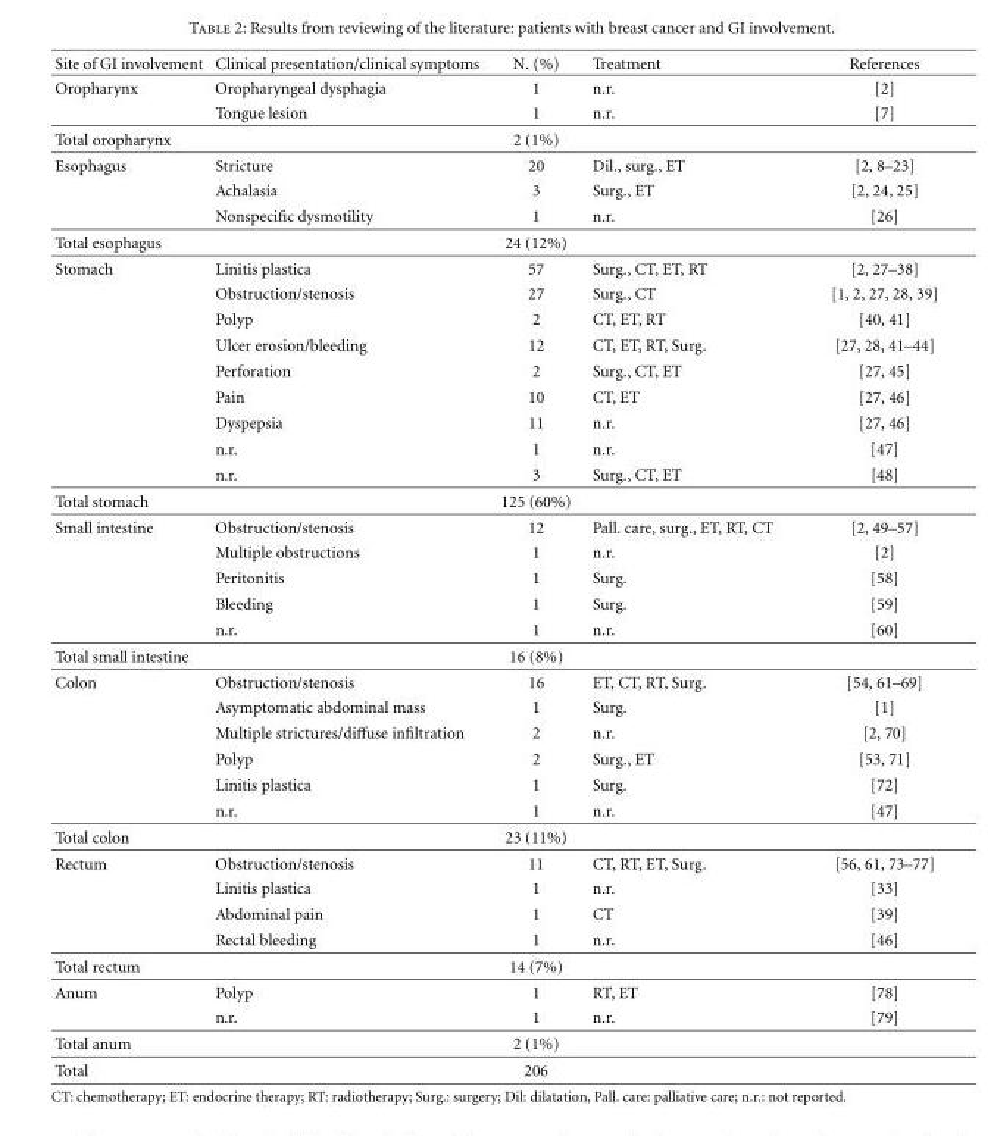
<table><thead><tr><td>Site of GI involvement</td><td>Clinical presentation/clinical symptoms</td><td>N. (%)</td><td>Treatment</td><td>References</td></tr></thead><tbody><tr><td rowspan="2">Oropharynx</td><td>Oropharyngeal dysphagia</td><td>1</td><td>n.r.</td><td>[2]</td></tr><tr><td>Tongue lesion</td><td>1</td><td>n.r.</td><td>[7]</td></tr><tr><td>Total oropharynx</td><td></td><td>2 (1%)</td><td></td><td></td></tr><tr><td rowspan="3">Esophagus</td><td>Stricture</td><td>20</td><td>Dil., surg., ET</td><td>[2, 8–23]</td></tr><tr><td>Achalasia</td><td>3</td><td>Surg., ET</td><td>[2, 24, 25]</td></tr><tr><td>Nonspecific dysmotility</td><td>1</td><td>n.r.</td><td>[26]</td></tr><tr><td>Total esophagus</td><td></td><td>24 (12%)</td><td></td><td></td></tr><tr><td rowspan="9">Stomach</td><td>Linitis plastica</td><td>57</td><td>Surg., CT, ET, RT</td><td>[2, 27–38]</td></tr><tr><td>Obstruction/stenosis</td><td>27</td><td>Surg., CT</td><td>[1, 2, 27, 28, 39]</td></tr><tr><td>Polyp</td><td>2</td><td>CT, ET, RT</td><td>[40, 41]</td></tr><tr><td>Ulcer erosion/bleeding</td><td>12</td><td>CT, ET, RT, Surg.</td><td>[27, 28, 41–44]</td></tr><tr><td>Perforation</td><td>2</td><td>Surg., CT, ET</td><td>[27, 45]</td></tr><tr><td>Pain</td><td>10</td><td>CT, ET</td><td>[27, 46]</td></tr><tr><td>Dyspepsia</td><td>11</td><td>n.r.</td><td>[27, 46]</td></tr><tr><td>n.r.</td><td>1</td><td>n.r.</td><td>[47]</td></tr><tr><td>n.r.</td><td>3</td><td>Surg., CT, ET</td><td>[48]</td></tr><tr><td>Total stomach</td><td></td><td>125 (60%)</td><td></td><td></td></tr><tr><td rowspan="5">Small intestine</td><td>Obstruction/stenosis</td><td>12</td><td>Pall. care, surg., ET, RT, CT</td><td>[2, 49–57]</td></tr><tr><td>Multiple obstructions</td><td>1</td><td>n.r.</td><td>[2]</td></tr><tr><td>Peritonitis</td><td>1</td><td>Surg.</td><td>[58]</td></tr><tr><td>Bleeding</td><td>1</td><td>Surg.</td><td>[59]</td></tr><tr><td>n.r.</td><td>1</td><td>n.r.</td><td>[60]</td></tr><tr><td>Total small intestine</td><td></td><td>16 (8%)</td><td></td><td></td></tr><tr><td rowspan="6">Colon</td><td>Obstruction/stenosis</td><td>16</td><td>ET, CT, RT, Surg.</td><td>[54, 61–69]</td></tr><tr><td>Asymptomatic abdominal mass</td><td>1</td><td>Surg.</td><td>[1]</td></tr><tr><td>Multiple strictures/diffuse infiltration</td><td>2</td><td>n.r.</td><td>[2, 70]</td></tr><tr><td>Polyp</td><td>2</td><td>Surg., ET</td><td>[53, 71]</td></tr><tr><td>Linitis plastica</td><td>1</td><td>Surg.</td><td>[72]</td></tr><tr><td>n.r.</td><td>1</td><td>n.r.</td><td>[47]</td></tr><tr><td>Total colon</td><td></td><td>23 (11%)</td><td></td><td></td></tr><tr><td rowspan="4">Rectum</td><td>Obstruction/stenosis</td><td>11</td><td>CT, RT, ET, Surg.</td><td>[56, 61, 73–77]</td></tr><tr><td>Linitis plastica</td><td>1</td><td>n.r.</td><td>[33]</td></tr><tr><td>Abdominal pain</td><td>1</td><td>CT</td><td>[39]</td></tr><tr><td>Rectal bleeding</td><td>1</td><td>n.r.</td><td>[46]</td></tr><tr><td>Total rectum</td><td></td><td>14 (7%)</td><td></td><td></td></tr><tr><td rowspan="2">Anum</td><td>Polyp</td><td>1</td><td>RT, ET</td><td>[78]</td></tr><tr><td>n.r.</td><td>1</td><td>n.r.</td><td>[79]</td></tr><tr><td>Total anum</td><td></td><td>2 (1%)</td><td></td><td></td></tr><tr><td>Total</td><td></td><td>206</td><td></td><td></td></tr></tbody></table>